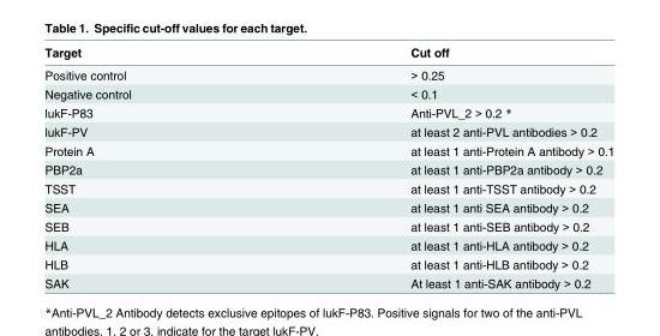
<table><thead><tr><td>Target</td><td>Cut off</td></tr></thead><tbody><tr><td>Positive control</td><td>&gt; 0.25</td></tr><tr><td>Negative control</td><td>&lt; 0.1</td></tr><tr><td>lukF-P83</td><td>Anti-PVL_2 &gt; 0.2 *</td></tr><tr><td>lukF-PV</td><td>at least 2 anti-PVL antibodies &gt; 0.2</td></tr><tr><td>Protein A</td><td>at least 1 anti-Protein A antibody &gt; 0.1</td></tr><tr><td>PBP2a</td><td>at least 1 anti-PBP2a antibody &gt; 0.2</td></tr><tr><td>TSST</td><td>at least 1 anti-TSST antibody &gt; 0.2</td></tr><tr><td>SEA</td><td>at least 1 anti SEA antibody &gt; 0.2</td></tr><tr><td>SEB</td><td>at least 1 anti-SEB antibody &gt; 0.2</td></tr><tr><td>HLA</td><td>at least 1 anti-HLA antibody &gt; 0.2</td></tr><tr><td>HLB</td><td>at least 1 anti-HLB antibody &gt; 0.2</td></tr><tr><td>SAK</td><td>At least 1 anti-SAK antibody &gt; 0.2</td></tr></tbody></table>